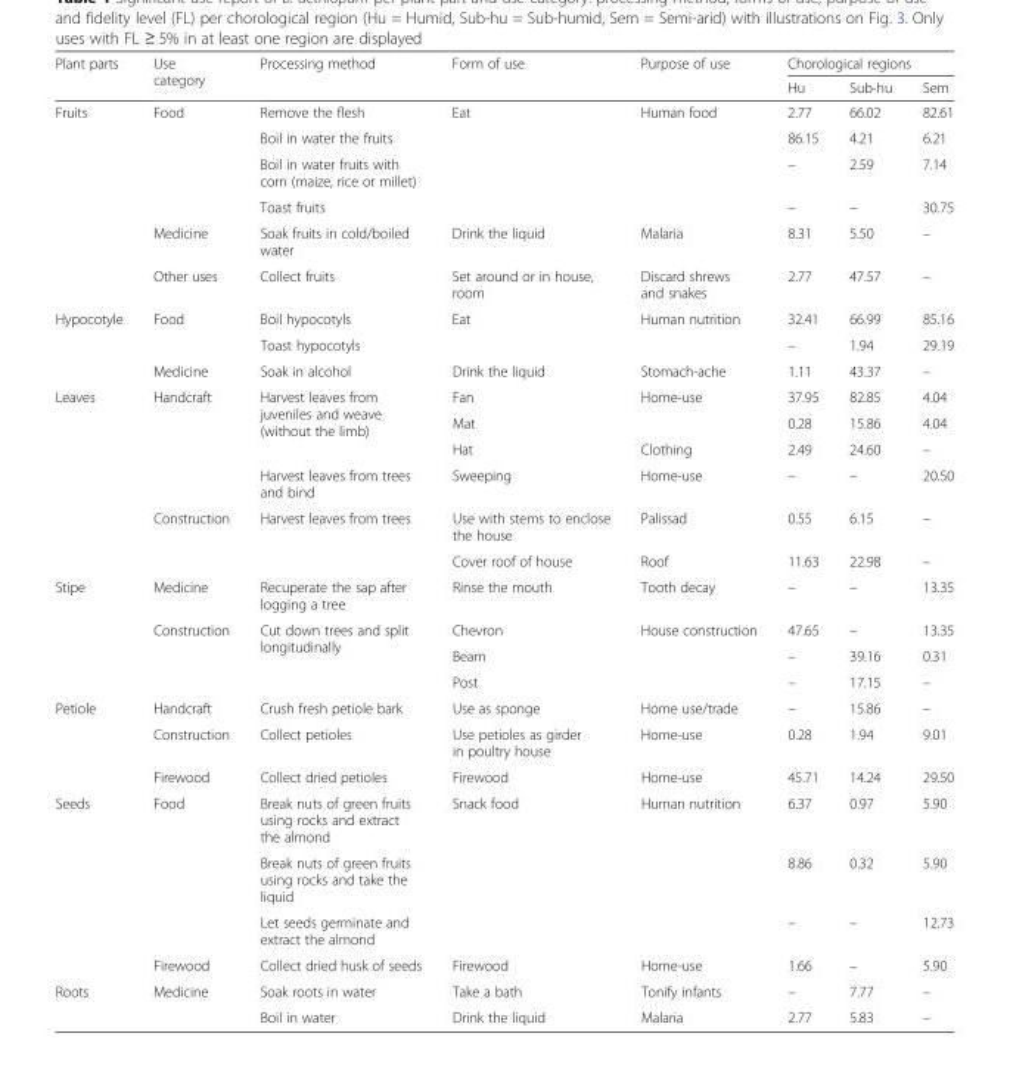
<table><thead><tr><td rowspan="2">Plant parts</td><td rowspan="2">Use category</td><td rowspan="2">Processing method</td><td rowspan="2">Form of use</td><td rowspan="2">Purpose of use</td><td colspan="3">Chorological regions</td></tr><tr><td>Hu</td><td>Sub-hu</td><td>Sem</td></tr></thead><tbody><tr><td rowspan="6">Fruits</td><td rowspan="4">Food</td><td>Remove the flesh</td><td rowspan="4">Eat</td><td rowspan="4">Human food</td><td>2.77</td><td>66.02</td><td>82.61</td></tr><tr><td>Boil in water the fruits</td><td>86.15</td><td>4.21</td><td>6.21</td></tr><tr><td>Boil in water fruits with corn (maize, rice or millet)</td><td>–</td><td>2.59</td><td>7.14</td></tr><tr><td>Toast fruits</td><td>–</td><td>–</td><td>30.75</td></tr><tr><td>Medicine</td><td>Soak fruits in cold/boiled water</td><td>Drink the liquid</td><td>Malaria</td><td>8.31</td><td>5.50</td><td>–</td></tr><tr><td>Other uses</td><td>Collect fruits</td><td>Set around or in house, room</td><td>Discard shrews and snakes</td><td>2.77</td><td>47.57</td><td>–</td></tr><tr><td rowspan="3">Hypocotyle</td><td rowspan="2">Food</td><td>Boil hypocotyls</td><td rowspan="2">Eat</td><td rowspan="2">Human nutrition</td><td>32.41</td><td>66.99</td><td>85.16</td></tr><tr><td>Toast hypocotyls</td><td>–</td><td>1.94</td><td>29.19</td></tr><tr><td>Medicine</td><td>Soak in alcohol</td><td>Drink the liquid</td><td>Stomach-ache</td><td>1.11</td><td>43.37</td><td>–</td></tr><tr><td rowspan="6">Leaves</td><td rowspan="4">Handcraft</td><td rowspan="3">Harvest leaves from juveniles and weave (without the limb)</td><td>Fan</td><td rowspan="2">Home-use</td><td>37.95</td><td>82.85</td><td>4.04</td></tr><tr><td>Mat</td><td>0.28</td><td>15.86</td><td>4.04</td></tr><tr><td>Hat</td><td>Clothing</td><td>2.49</td><td>24.60</td><td>–</td></tr><tr><td>Harvest leaves from trees and bind</td><td>Sweeping</td><td>Home-use</td><td>–</td><td>–</td><td>20.50</td></tr><tr><td rowspan="2">Construction</td><td rowspan="2">Harvest leaves from trees</td><td>Use with stems to enclose the house</td><td>Palissad</td><td>0.55</td><td>6.15</td><td>–</td></tr><tr><td>Cover roof of house</td><td>Roof</td><td>11.63</td><td>22.98</td><td>–</td></tr><tr><td rowspan="4">Stipe</td><td>Medicine</td><td>Recuperate the sap after logging a tree</td><td>Rinse the mouth</td><td>Tooth decay</td><td>–</td><td>–</td><td>13.35</td></tr><tr><td rowspan="3">Construction</td><td rowspan="3">Cut down trees and split longitudinally</td><td>Chevron</td><td rowspan="3">House construction</td><td>47.65</td><td>–</td><td>13.35</td></tr><tr><td>Beam</td><td>–</td><td>39.16</td><td>0.31</td></tr><tr><td>Post</td><td>–</td><td>17.15</td><td>–</td></tr><tr><td rowspan="3">Petiole</td><td>Handcraft</td><td>Crush fresh petiole bark</td><td>Use as sponge</td><td>Home use/trade</td><td>–</td><td>15.86</td><td>–</td></tr><tr><td>Construction</td><td>Collect petioles</td><td>Use petioles as girder in poultry house</td><td>Home-use</td><td>0.28</td><td>1.94</td><td>9.01</td></tr><tr><td>Firewood</td><td>Collect dried petioles</td><td>Firewood</td><td>Home-use</td><td>45.71</td><td>14.24</td><td>29.50</td></tr><tr><td rowspan="4">Seeds</td><td rowspan="3">Food</td><td>Break nuts of green fruits using rocks and extract the almond</td><td rowspan="3">Snack food</td><td rowspan="3">Human nutrition</td><td>6.37</td><td>0.97</td><td>5.90</td></tr><tr><td>Break nuts of green fruits using rocks and take the liquid</td><td>8.86</td><td>0.32</td><td>5.90</td></tr><tr><td>Let seeds germinate and extract the almond</td><td>–</td><td>–</td><td>12.73</td></tr><tr><td>Firewood</td><td>Collect dried husk of seeds</td><td>Firewood</td><td>Home-use</td><td>1.66</td><td>–</td><td>5.90</td></tr><tr><td rowspan="2">Roots</td><td rowspan="2">Medicine</td><td>Soak roots in water</td><td>Take a bath</td><td>Tonify infants</td><td>–</td><td>7.77</td><td>–</td></tr><tr><td>Boil in water</td><td>Drink the liquid</td><td>Malaria</td><td>2.77</td><td>5.83</td><td>–</td></tr></tbody></table>